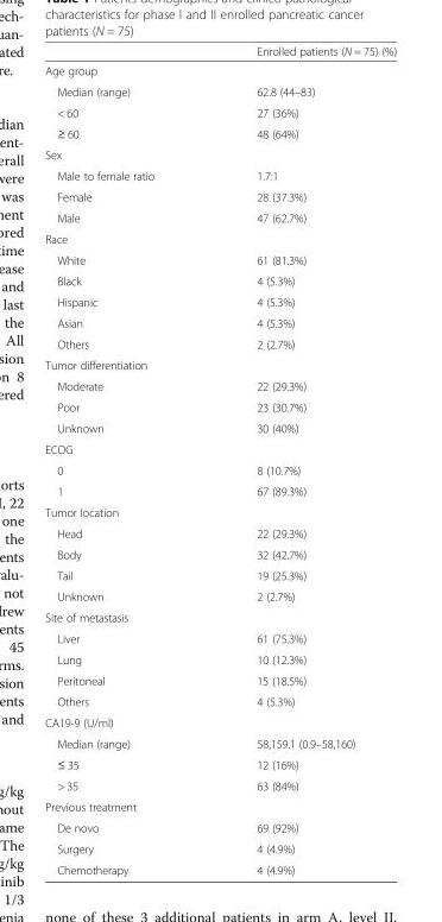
<table><thead><tr><td></td><td>Enrolled patients (N = 75) (%)</td></tr></thead><tbody><tr><td colspan="2">Age group</td></tr><tr><td>Median (range)</td><td>62.8 (44–83)</td></tr><tr><td>&lt; 60</td><td>27 (36%)</td></tr><tr><td>≥ 60</td><td>48 (64%)</td></tr><tr><td colspan="2">Sex</td></tr><tr><td>Male to female ratio</td><td>1.7:1</td></tr><tr><td>Female</td><td>28 (37.3%)</td></tr><tr><td>Male</td><td>47 (62.7%)</td></tr><tr><td colspan="2">Race</td></tr><tr><td>White</td><td>61 (81.3%)</td></tr><tr><td>Black</td><td>4 (5.3%)</td></tr><tr><td>Hispanic</td><td>4 (5.3%)</td></tr><tr><td>Asian</td><td>4 (5.3%)</td></tr><tr><td>Others</td><td>2 (2.7%)</td></tr><tr><td colspan="2">Tumor differentiation</td></tr><tr><td>Moderate</td><td>22 (29.3%)</td></tr><tr><td>Poor</td><td>23 (30.7%)</td></tr><tr><td>Unknown</td><td>30 (40%)</td></tr><tr><td colspan="2">ECOG</td></tr><tr><td>0</td><td>8 (10.7%)</td></tr><tr><td>1</td><td>67 (89.3%)</td></tr><tr><td colspan="2">Tumor location</td></tr><tr><td>Head</td><td>22 (29.3%)</td></tr><tr><td>Body</td><td>32 (42.7%)</td></tr><tr><td>Tail</td><td>19 (25.3%)</td></tr><tr><td>Unknown</td><td>2 (2.7%)</td></tr><tr><td colspan="2">Site of metastasis</td></tr><tr><td>Liver</td><td>61 (75.3%)</td></tr><tr><td>Lung</td><td>10 (12.3%)</td></tr><tr><td>Peritoneal</td><td>15 (18.5%)</td></tr><tr><td>Others</td><td>4 (5.3%)</td></tr><tr><td colspan="2">CA19-9 (U/ml)</td></tr><tr><td>Median (range)</td><td>58,159.1 (0.9–58,160)</td></tr><tr><td>≤ 35</td><td>12 (16%)</td></tr><tr><td>&gt; 35</td><td>63 (84%)</td></tr><tr><td colspan="2">Previous treatment</td></tr><tr><td>De novo</td><td>69 (92%)</td></tr><tr><td>Surgery</td><td>4 (4.9%)</td></tr><tr><td>Chemotherapy</td><td>4 (4.9%)</td></tr></tbody></table>